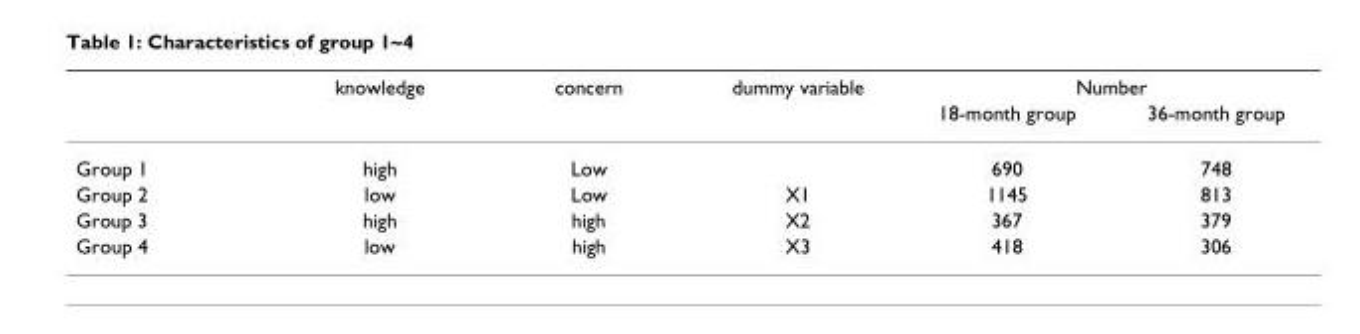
<table><thead><tr><td rowspan="2"></td><td rowspan="2">knowledge</td><td rowspan="2">concern</td><td rowspan="2">dummy variable</td><td colspan="2">Number</td></tr><tr><td>18-month group</td><td>36-month group</td></tr></thead><tbody><tr><td>Group 1</td><td>high</td><td>Low</td><td></td><td>690</td><td>748</td></tr><tr><td>Group 2</td><td>low</td><td>Low</td><td>X1</td><td>1145</td><td>813</td></tr><tr><td>Group 3</td><td>high</td><td>high</td><td>X2</td><td>367</td><td>379</td></tr><tr><td>Group 4</td><td>low</td><td>high</td><td>X3</td><td>418</td><td>306</td></tr></tbody></table>